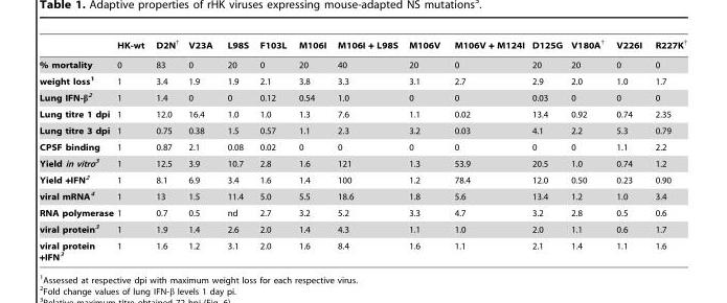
<table><thead><tr><td></td><td>HK-wt</td><td>D2N<sup>†</sup></td><td>V23A</td><td>L98S</td><td>F103L</td><td>M106I</td><td>M106I + L98S</td><td>M106V</td><td>M106V + M124I</td><td>D125G</td><td>V180A<sup>†</sup></td><td>V226I</td><td>R227K<sup>†</sup></td></tr></thead><tbody><tr><td>% mortality</td><td>0</td><td>83</td><td>0</td><td>20</td><td>0</td><td>20</td><td>40</td><td>20</td><td>0</td><td>20</td><td>20</td><td>0</td><td>0</td></tr><tr><td>weight loss1</td><td>1</td><td>3.4</td><td>1.9</td><td>1.9</td><td>2.1</td><td>3.8</td><td>3.3</td><td>3.1</td><td>2.7</td><td>2.9</td><td>2.0</td><td>1.0</td><td>1.7</td></tr><tr><td>Lung IFN-β2</td><td>1</td><td>1.4</td><td>0</td><td>0</td><td>0.12</td><td>0.54</td><td>1.0</td><td>0</td><td>0</td><td>0.03</td><td>0</td><td>0</td><td>0</td></tr><tr><td>Lung titre 1 dpi</td><td>1</td><td>12.0</td><td>16.4</td><td>1.0</td><td>1.0</td><td>1.3</td><td>7.6</td><td>1.1</td><td>0.02</td><td>13.4</td><td>0.92</td><td>0.74</td><td>2.35</td></tr><tr><td>Lung titre 3 dpi</td><td>1</td><td>0.75</td><td>0.38</td><td>1.5</td><td>0.57</td><td>1.1</td><td>2.3</td><td>3.2</td><td>0.03</td><td>4.1</td><td>2.2</td><td>5.3</td><td>0.79</td></tr><tr><td>CPSF binding</td><td>1</td><td>0.87</td><td>2.1</td><td>0.08</td><td>0.02</td><td>0</td><td>0</td><td>0</td><td>0</td><td>0</td><td>0</td><td>1.1</td><td>2.2</td></tr><tr><td>Yield in vitro3</td><td>1</td><td>12.5</td><td>3.9</td><td>10.7</td><td>2.8</td><td>1.6</td><td>121</td><td>1.3</td><td>53.9</td><td>20.5</td><td>1.0</td><td>0.74</td><td>1.2</td></tr><tr><td>Yield +IFN2</td><td>1</td><td>8.1</td><td>6.9</td><td>3.4</td><td>1.6</td><td>1.4</td><td>100</td><td>1.2</td><td>78.4</td><td>12.0</td><td>0.50</td><td>0.23</td><td>0.90</td></tr><tr><td>viral mRNA4</td><td>1</td><td>13</td><td>1.5</td><td>11.4</td><td>5.0</td><td>5.5</td><td>18.6</td><td>1.8</td><td>5.6</td><td>13.4</td><td>1.2</td><td>1.0</td><td>3.4</td></tr><tr><td>RNA polymerase</td><td>1</td><td>0.7</td><td>0.5</td><td>nd</td><td>2.7</td><td>3.2</td><td>5.2</td><td>3.3</td><td>4.7</td><td>3.2</td><td>2.8</td><td>0.5</td><td>0.6</td></tr><tr><td>viral protein3</td><td>1</td><td>1.9</td><td>1.4</td><td>2.6</td><td>2.0</td><td>1.4</td><td>4.3</td><td>1.1</td><td>1.0</td><td>2.0</td><td>1.1</td><td>0.6</td><td>1.7</td></tr><tr><td>viral protein +IFN3</td><td>1</td><td>1.6</td><td>1.2</td><td>3.1</td><td>2.0</td><td>1.6</td><td>8.4</td><td>1.6</td><td>1.1</td><td>2.1</td><td>1.4</td><td>1.1</td><td>1.6</td></tr></tbody></table>